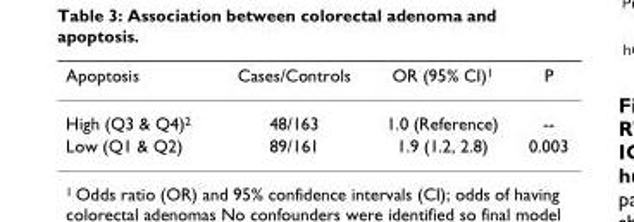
<table><thead><tr><td>Apoptosis</td><td>Cases/Controls</td><td>OR (95% CI)<sup>1</sup></td><td>P</td></tr></thead><tbody><tr><td>High (Q3 &amp; Q4)<sup>2</sup></td><td>48/163</td><td>1.0 (Reference)</td><td>--</td></tr><tr><td>Low (Q1 &amp; Q2)</td><td>89/161</td><td>1.9 (1.2, 2.8)</td><td>0.003</td></tr></tbody></table>